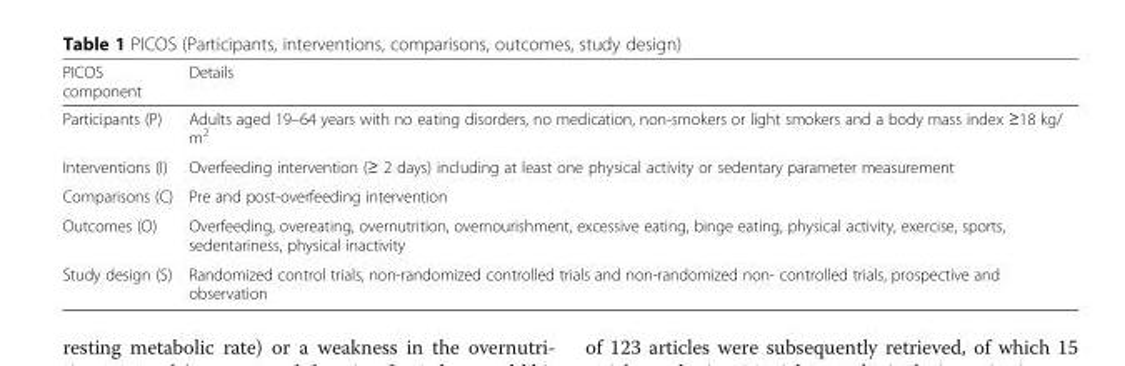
<table><thead><tr><td>PICOS component</td><td>Details</td></tr></thead><tbody><tr><td>Participants (P)</td><td>Adults aged 19–64 years with no eating disorders, no medication, non-smokers or light smokers and a body mass index ≥18 kg/ m<sup>2</sup></td></tr><tr><td>Interventions (I)</td><td>Overfeeding intervention (≥ 2 days) including at least one physical activity or sedentary parameter measurement</td></tr><tr><td>Comparisons (C)</td><td>Pre and post-overfeeding intervention</td></tr><tr><td>Outcomes (O)</td><td>Overfeeding, overeating, overnutrition, overnourishment, excessive eating, binge eating, physical activity, exercise, sports, sedentariness, physical inactivity</td></tr><tr><td>Study design (S)</td><td>Randomized control trials, non-randomized controlled trials and non-randomized non- controlled trials, prospective and observation</td></tr></tbody></table>